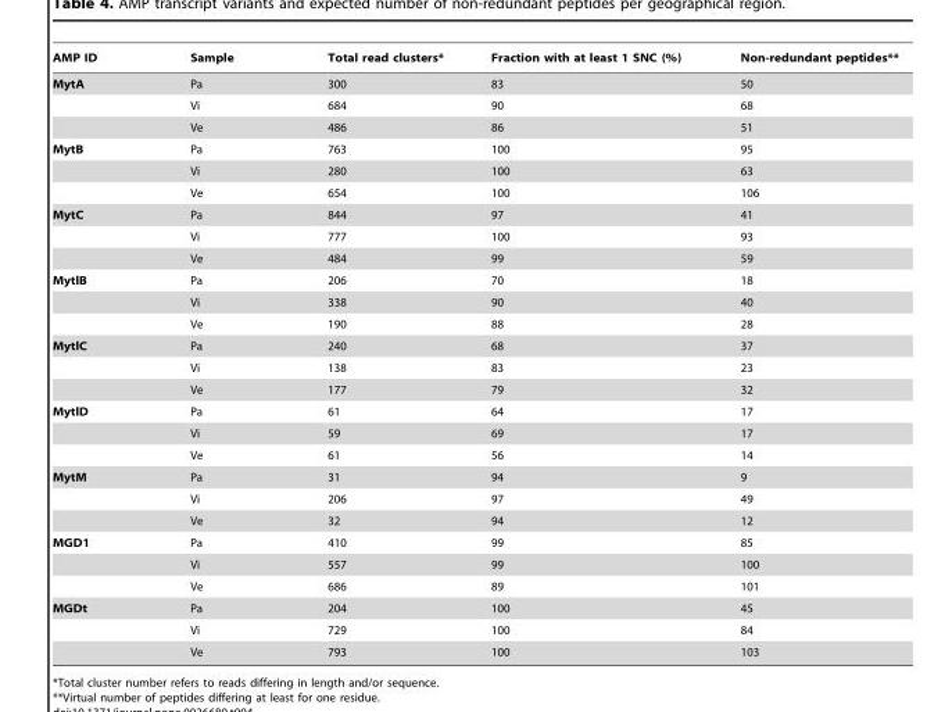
<table><thead><tr><td>AMP ID</td><td>Sample</td><td>Total read clusters*</td><td>Fraction with at least 1 SNC (%)</td><td>Non-redundant peptides**</td></tr></thead><tbody><tr><td rowspan="3">MytA</td><td>Pa</td><td>300</td><td>83</td><td>50</td></tr><tr><td>Vi</td><td>684</td><td>90</td><td>68</td></tr><tr><td>Ve</td><td>486</td><td>86</td><td>51</td></tr><tr><td rowspan="3">MytB</td><td>Pa</td><td>763</td><td>100</td><td>95</td></tr><tr><td>Vi</td><td>280</td><td>100</td><td>63</td></tr><tr><td>Ve</td><td>654</td><td>100</td><td>106</td></tr><tr><td rowspan="3">MytC</td><td>Pa</td><td>844</td><td>97</td><td>41</td></tr><tr><td>Vi</td><td>777</td><td>100</td><td>93</td></tr><tr><td>Ve</td><td>484</td><td>99</td><td>59</td></tr><tr><td rowspan="3">MytlB</td><td>Pa</td><td>206</td><td>70</td><td>18</td></tr><tr><td>Vi</td><td>338</td><td>90</td><td>40</td></tr><tr><td>Ve</td><td>190</td><td>88</td><td>28</td></tr><tr><td rowspan="3">MytlC</td><td>Pa</td><td>240</td><td>68</td><td>37</td></tr><tr><td>Vi</td><td>138</td><td>83</td><td>23</td></tr><tr><td>Ve</td><td>177</td><td>79</td><td>32</td></tr><tr><td rowspan="3">MytlD</td><td>Pa</td><td>61</td><td>64</td><td>17</td></tr><tr><td>Vi</td><td>59</td><td>69</td><td>17</td></tr><tr><td>Ve</td><td>61</td><td>56</td><td>14</td></tr><tr><td rowspan="3">MytM</td><td>Pa</td><td>31</td><td>94</td><td>9</td></tr><tr><td>Vi</td><td>206</td><td>97</td><td>49</td></tr><tr><td>Ve</td><td>32</td><td>94</td><td>12</td></tr><tr><td rowspan="3">MGD1</td><td>Pa</td><td>410</td><td>99</td><td>85</td></tr><tr><td>Vi</td><td>557</td><td>99</td><td>100</td></tr><tr><td>Ve</td><td>686</td><td>89</td><td>101</td></tr><tr><td rowspan="3">MGDt</td><td>Pa</td><td>204</td><td>100</td><td>45</td></tr><tr><td>Vi</td><td>729</td><td>100</td><td>84</td></tr><tr><td>Ve</td><td>793</td><td>100</td><td>103</td></tr></tbody></table>